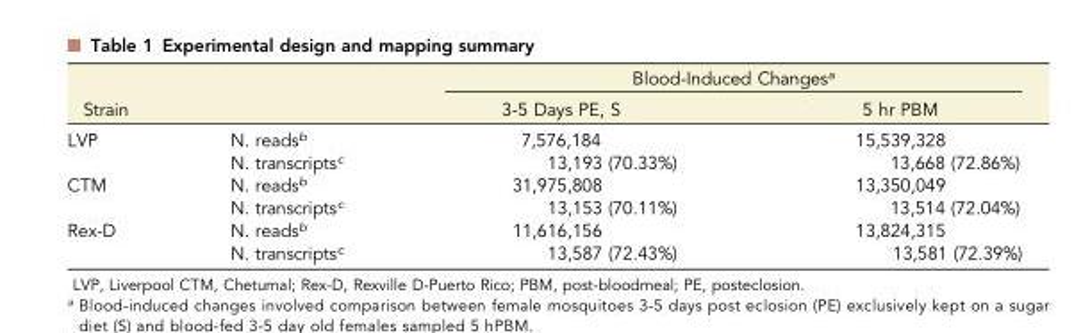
<table><thead><tr><td rowspan="2">Strain</td><td rowspan="2"></td><td colspan="2">Blood-Induced Changes<sup>a</sup></td></tr><tr><td>3-5 Days PE, S</td><td>5 hr PBM</td></tr></thead><tbody><tr><td rowspan="2">LVP</td><td>N. reads<sup>b</sup></td><td>7,576,184</td><td>15,539,328</td></tr><tr><td>N. transcripts<sup>c</sup></td><td>13,193 (70.33%)</td><td>13,668 (72.86%)</td></tr><tr><td rowspan="2">CTM</td><td>N. reads<sup>b</sup></td><td>31,975,808</td><td>13,350,049</td></tr><tr><td>N. transcripts<sup>c</sup></td><td>13,153 (70.11%)</td><td>13,514 (72.04%)</td></tr><tr><td rowspan="2">Rex-D</td><td>N. reads<sup>b</sup></td><td>11,616,156</td><td>13,824,315</td></tr><tr><td>N. transcripts<sup>c</sup></td><td>13,587 (72.43%)</td><td>13,581 (72.39%)</td></tr></tbody></table>